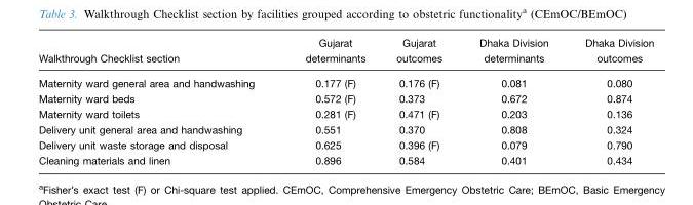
<table><thead><tr><td>Walkthrough Checklist section</td><td>Gujarat determinants</td><td>Gujarat outcomes</td><td>Dhaka Division determinants</td><td>Dhaka Division outcomes</td></tr></thead><tbody><tr><td>Maternity ward general area and handwashing</td><td>0.177 (F)</td><td>0.176 (F)</td><td>0.081</td><td>0.080</td></tr><tr><td>Maternity ward beds</td><td>0.572 (F)</td><td>0.373</td><td>0.672</td><td>0.874</td></tr><tr><td>Maternity ward toilets</td><td>0.281 (F)</td><td>0.471 (F)</td><td>0.203</td><td>0.136</td></tr><tr><td>Delivery unit general area and handwashing</td><td>0.551</td><td>0.370</td><td>0.808</td><td>0.324</td></tr><tr><td>Delivery unit waste storage and disposal</td><td>0.625</td><td>0.396 (F)</td><td>0.079</td><td>0.790</td></tr><tr><td>Cleaning materials and linen</td><td>0.896</td><td>0.584</td><td>0.401</td><td>0.434</td></tr></tbody></table>